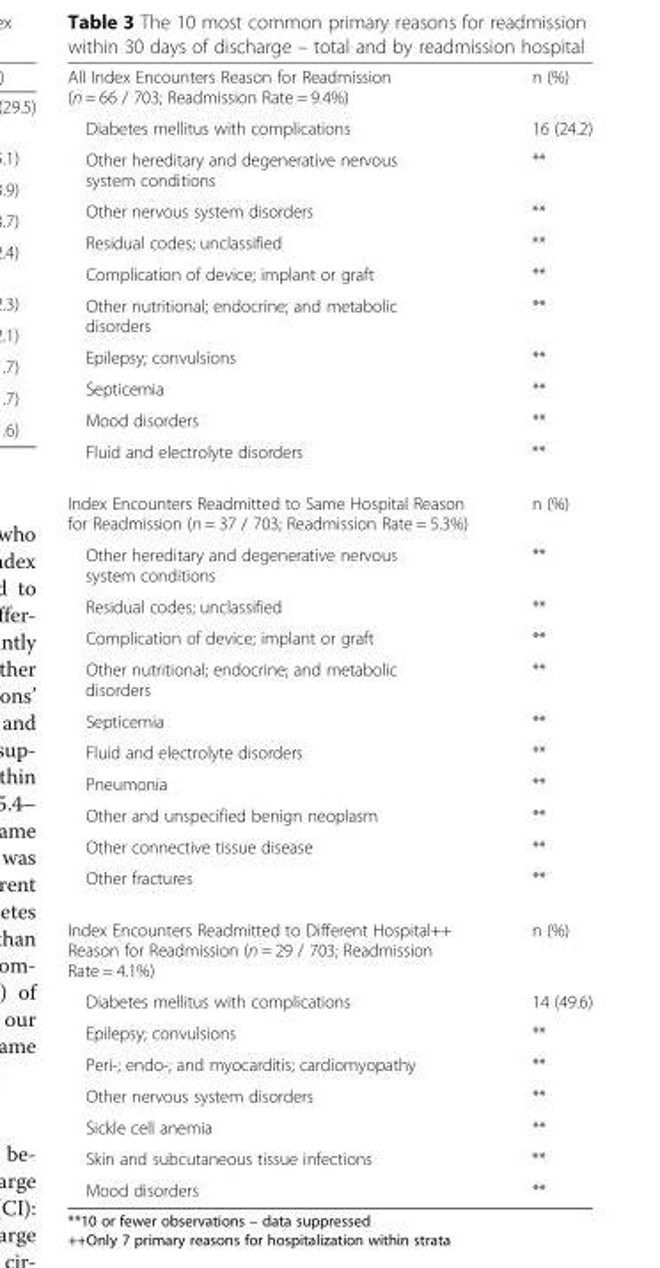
<table><tbody><tr><td>All Index Encounters Reason for Readmission (n = 66 / 703; Readmission Rate = 9.4%)</td><td>n (%)</td></tr><tr><td>Diabetes mellitus with complications</td><td>16 (24.2)</td></tr><tr><td>Other hereditary and degenerative nervous system conditions</td><td>**</td></tr><tr><td>Other nervous system disorders</td><td>**</td></tr><tr><td>Residual codes; unclassified</td><td>**</td></tr><tr><td>Complication of device; implant or graft</td><td>**</td></tr><tr><td>Other nutritional; endocrine; and metabolic disorders</td><td>**</td></tr><tr><td>Epilepsy; convulsions</td><td>**</td></tr><tr><td>Septicemia</td><td>**</td></tr><tr><td>Mood disorders</td><td>**</td></tr><tr><td>Fluid and electrolyte disorders</td><td>**</td></tr><tr><td>Index Encounters Readmitted to Same Hospital Reason for Readmission (n = 37 / 703; Readmission Rate = 5.3%)</td><td>n (%)</td></tr><tr><td>Other hereditary and degenerative nervous system conditions</td><td>**</td></tr><tr><td>Residual codes; unclassified</td><td>**</td></tr><tr><td>Complication of device; implant or graft</td><td>**</td></tr><tr><td>Other nutritional; endocrine; and metabolic disorders</td><td>**</td></tr><tr><td>Septicemia</td><td>**</td></tr><tr><td>Fluid and electrolyte disorders</td><td>**</td></tr><tr><td>Pneumonia</td><td>**</td></tr><tr><td>Other and unspecified benign neoplasm</td><td>**</td></tr><tr><td>Other connective tissue disease</td><td>**</td></tr><tr><td>Other fractures</td><td>**</td></tr><tr><td>Index Encounters Readmitted to Different Hospital++ Reason for Readmission (n = 29 / 703; Readmission Rate = 4.1%)</td><td>n (%)</td></tr><tr><td>Diabetes mellitus with complications</td><td>14 (49.6)</td></tr><tr><td>Epilepsy; convulsions</td><td>**</td></tr><tr><td>Peri-; endo-; and myocarditis; cardiomyopathy</td><td>**</td></tr><tr><td>Other nervous system disorders</td><td>**</td></tr><tr><td>Sickle cell anemia</td><td>**</td></tr><tr><td>Skin and subcutaneous tissue infections</td><td>**</td></tr><tr><td>Mood disorders</td><td>**</td></tr></tbody></table>